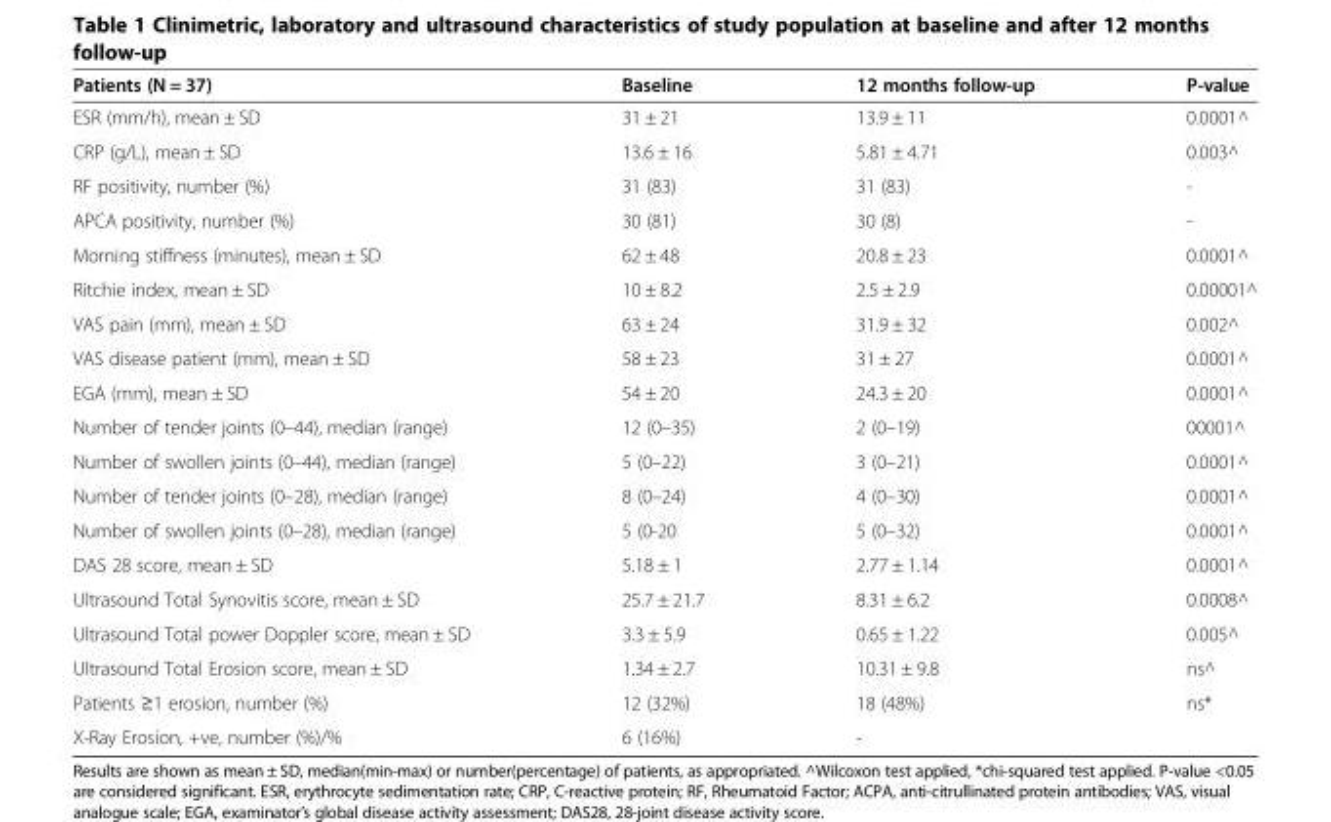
<table><thead><tr><td>Patients (N = 37)</td><td>Baseline</td><td>12 months follow-up</td><td>P-value</td></tr></thead><tbody><tr><td>ESR (mm/h), mean ± SD</td><td>31 ± 21</td><td>13.9 ± 11</td><td>0.0001^</td></tr><tr><td>CRP (g/L), mean ± SD</td><td>13.6 ± 16</td><td>5.81 ± 4.71</td><td>0.003^</td></tr><tr><td>RF positivity, number (%)</td><td>31 (83)</td><td>31 (83)</td><td>-</td></tr><tr><td>APCA positivity, number (%)</td><td>30 (81)</td><td>30 (8)</td><td>-</td></tr><tr><td>Morning stiffness (minutes), mean ± SD</td><td>62 ± 48</td><td>20.8 ± 23</td><td>0.0001^</td></tr><tr><td>Ritchie index, mean ± SD</td><td>10 ± 8.2</td><td>2.5 ± 2.9</td><td>0.00001^</td></tr><tr><td>VAS pain (mm), mean ± SD</td><td>63 ± 24</td><td>31.9 ± 32</td><td>0.002^</td></tr><tr><td>VAS disease patient (mm), mean ± SD</td><td>58 ± 23</td><td>31 ± 27</td><td>0.0001^</td></tr><tr><td>EGA (mm), mean ± SD</td><td>54 ± 20</td><td>24.3 ± 20</td><td>0.0001^</td></tr><tr><td>Number of tender joints (0–44), median (range)</td><td>12 (0–35)</td><td>2 (0–19)</td><td>00001^</td></tr><tr><td>Number of swollen joints (0–44), median (range)</td><td>5 (0–22)</td><td>3 (0–21)</td><td>0.0001^</td></tr><tr><td>Number of tender joints (0–28), median (range)</td><td>8 (0–24)</td><td>4 (0–30)</td><td>0.0001^</td></tr><tr><td>Number of swollen joints (0–28), median (range)</td><td>5 (0-20</td><td>5 (0–32)</td><td>0.0001^</td></tr><tr><td>DAS 28 score, mean ± SD</td><td>5.18 ± 1</td><td>2.77 ± 1.14</td><td>0.0001^</td></tr><tr><td>Ultrasound Total Synovitis score, mean ± SD</td><td>25.7 ± 21.7</td><td>8.31 ± 6.2</td><td>0.0008^</td></tr><tr><td>Ultrasound Total power Doppler score, mean ± SD</td><td>3.3 ± 5.9</td><td>0.65 ± 1.22</td><td>0.005^</td></tr><tr><td>Ultrasound Total Erosion score, mean ± SD</td><td>1.34 ± 2.7</td><td>10.31 ± 9.8</td><td>ns^</td></tr><tr><td>Patients ≥1 erosion, number (%)</td><td>12 (32%)</td><td>18 (48%)</td><td>ns*</td></tr><tr><td>X-Ray Erosion, +ve, number (%)/%</td><td>6 (16%)</td><td>-</td><td></td></tr></tbody></table>